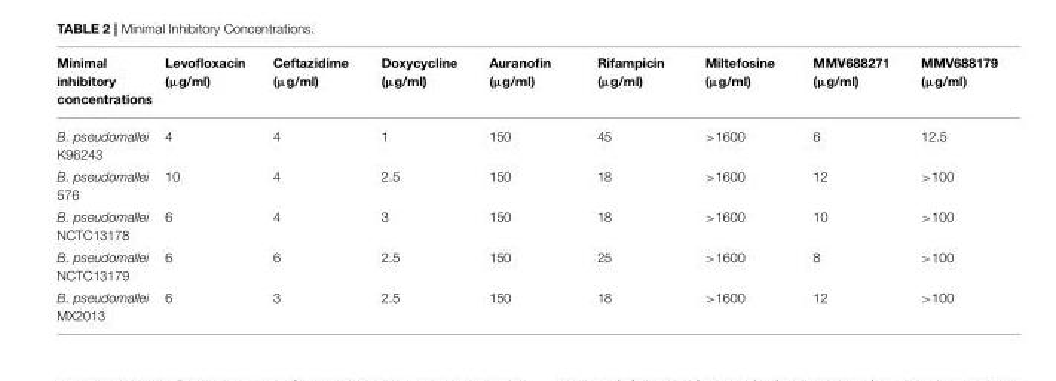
<table><thead><tr><td>Minimal inhibitory concentrations</td><td>Levofloxacin (µg/ml)</td><td>Ceftazidime (µg/ml)</td><td>Doxycycline (µg/ml)</td><td>Auranofin (µg/ml)</td><td>Rifampicin (µg/ml)</td><td>Miltefosine (µg/ml)</td><td>MMV688271 (µg/ml)</td><td>MMV688179 (µg/ml)</td></tr></thead><tbody><tr><td>B. pseudomallei K96243</td><td>4</td><td>4</td><td>1</td><td>150</td><td>45</td><td>&gt;1600</td><td>6</td><td>12.5</td></tr><tr><td>B. pseudomallei 576</td><td>10</td><td>4</td><td>2.5</td><td>150</td><td>18</td><td>&gt;1600</td><td>12</td><td>&gt;100</td></tr><tr><td>B. pseudomallei NCTC13178</td><td>6</td><td>4</td><td>3</td><td>150</td><td>18</td><td>&gt;1600</td><td>10</td><td>&gt;100</td></tr><tr><td>B. pseudomallei NCTC13179</td><td>6</td><td>6</td><td>2.5</td><td>150</td><td>25</td><td>&gt;1600</td><td>8</td><td>&gt;100</td></tr><tr><td>B. pseudomallei MX2013</td><td>6</td><td>3</td><td>2.5</td><td>150</td><td>18</td><td>&gt;1600</td><td>12</td><td>&gt;100</td></tr></tbody></table>